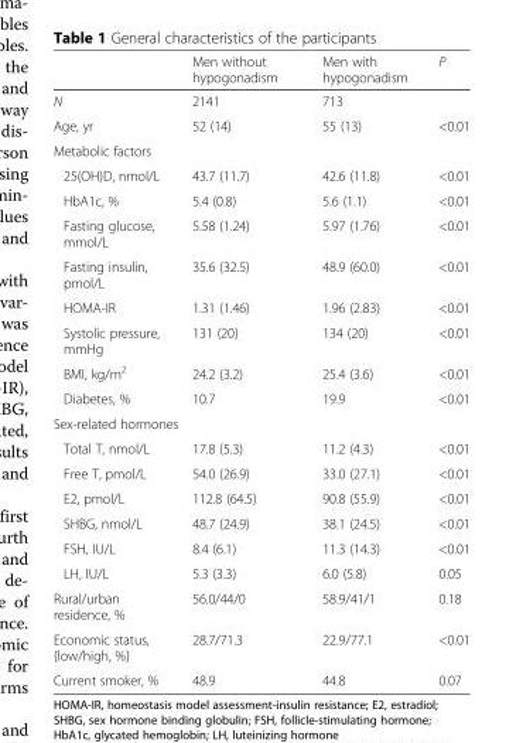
<table><thead><tr><td></td><td>Men without hypogonadism</td><td>Men with hypogonadism</td><td>P</td></tr></thead><tbody><tr><td>N</td><td>2141</td><td>713</td><td></td></tr><tr><td>Age, yr</td><td>52 (14)</td><td>55 (13)</td><td>&lt;0.01</td></tr><tr><td colspan="4">Metabolic factors</td></tr><tr><td>25(OH)D, nmol/L</td><td>43.7 (11.7)</td><td>42.6 (11.8)</td><td>&lt;0.01</td></tr><tr><td>HbA1c, %</td><td>5.4 (0.8)</td><td>5.6 (1.1)</td><td>&lt;0.01</td></tr><tr><td>Fasting glucose, mmol/L</td><td>5.58 (1.24)</td><td>5.97 (1.76)</td><td>&lt;0.01</td></tr><tr><td>Fasting insulin, pmol/L</td><td>35.6 (32.5)</td><td>48.9 (60.0)</td><td>&lt;0.01</td></tr><tr><td>HOMA-IR</td><td>1.31 (1.46)</td><td>1.96 (2.83)</td><td>&lt;0.01</td></tr><tr><td>Systolic pressure, mmHg</td><td>131 (20)</td><td>134 (20)</td><td>&lt;0.01</td></tr><tr><td>BMI, kg/m<sup>2</sup></td><td>24.2 (3.2)</td><td>25.4 (3.6)</td><td>&lt;0.01</td></tr><tr><td>Diabetes, %</td><td>10.7</td><td>19.9</td><td>&lt;0.01</td></tr><tr><td colspan="4">Sex-related hormones</td></tr><tr><td>Total T, nmol/L</td><td>17.8 (5.3)</td><td>11.2 (4.3)</td><td>&lt;0.01</td></tr><tr><td>Free T, pmol/L</td><td>54.0 (26.9)</td><td>33.0 (27.1)</td><td>&lt;0.01</td></tr><tr><td>E2, pmol/L</td><td>112.8 (64.5)</td><td>90.8 (55.9)</td><td>&lt;0.01</td></tr><tr><td>SHBG, nmol/L</td><td>48.7 (24.9)</td><td>38.1 (24.5)</td><td>&lt;0.01</td></tr><tr><td>FSH, IU/L</td><td>8.4 (6.1)</td><td>11.3 (14.3)</td><td>&lt;0.01</td></tr><tr><td>LH, IU/L</td><td>5.3 (3.3)</td><td>6.0 (5.8)</td><td>0.05</td></tr><tr><td>Rural/urban residence, %</td><td>56.0/44/0</td><td>58.9/41/1</td><td>0.18</td></tr><tr><td>Economic status, {low/high, %}</td><td>28.7/71.3</td><td>22.9/77.1</td><td>&lt;0.01</td></tr><tr><td>Current smoker, %</td><td>48.9</td><td>44.8</td><td>0.07</td></tr></tbody></table>